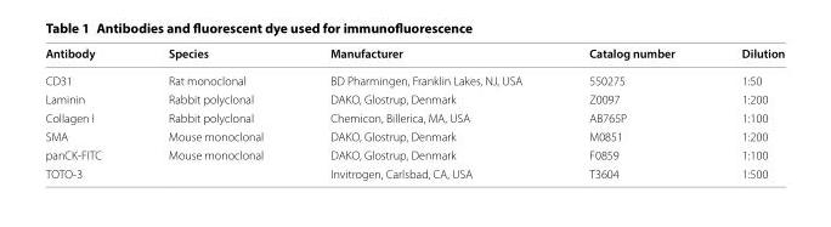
<table><thead><tr><td>Antibody</td><td>Species</td><td>Manufacturer</td><td>Catalog number</td><td>Dilution</td></tr></thead><tbody><tr><td>CD31</td><td>Rat monoclonal</td><td>BD Pharmingen, Franklin Lakes, NJ, USA</td><td>550275</td><td>1:50</td></tr><tr><td>Laminin</td><td>Rabbit polyclonal</td><td>DAKO, Glostrup, Denmark</td><td>Z0097</td><td>1:200</td></tr><tr><td>Collagen I</td><td>Rabbit polyclonal</td><td>Chemicon, Billerica, MA, USA</td><td>AB765P</td><td>1:100</td></tr><tr><td>SMA</td><td>Mouse monoclonal</td><td>DAKO, Glostrup, Denmark</td><td>M0851</td><td>1:200</td></tr><tr><td>panCK-FITC</td><td>Mouse monoclonal</td><td>DAKO, Glostrup, Denmark</td><td>F0859</td><td>1:100</td></tr><tr><td>TOTO-3</td><td></td><td>Invitrogen, Carlsbad, CA, USA</td><td>T3604</td><td>1:500</td></tr></tbody></table>